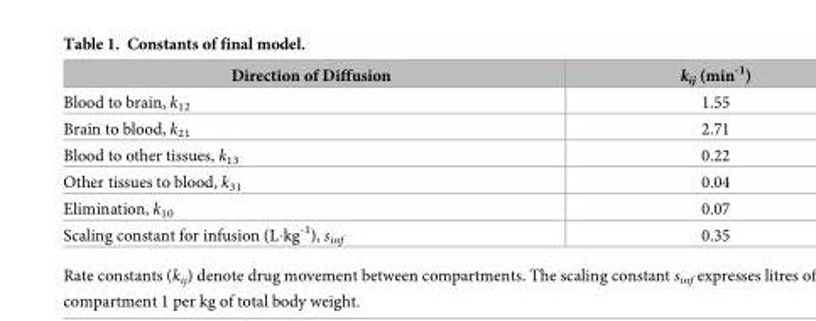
<table><thead><tr><td>Direction of Diffusion</td><td>k<sub>ij</sub> (min<sup>-1</sup>)</td></tr></thead><tbody><tr><td>Blood to brain, k<sub>12</sub></td><td>1.55</td></tr><tr><td>Brain to blood, k<sub>21</sub></td><td>2.71</td></tr><tr><td>Blood to other tissues, k<sub>13</sub></td><td>0.22</td></tr><tr><td>Other tissues to blood, k<sub>31</sub></td><td>0.04</td></tr><tr><td>Elimination, k<sub>10</sub></td><td>0.07</td></tr><tr><td>Scaling constant for infusion (L⋅kg<sup>-1</sup>), s<sub>inf</sub></td><td>0.35</td></tr></tbody></table>